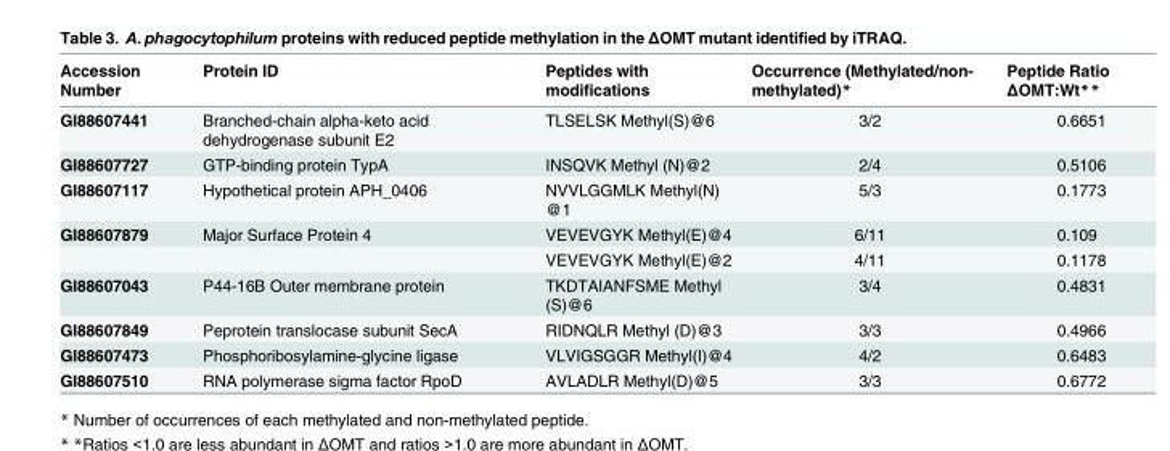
<table><thead><tr><td>Accession Number</td><td>Protein ID</td><td>Peptides with modifications</td><td>Occurrence (Methylated/non- methylated)*</td><td>Peptide Ratio ΔOMT:Wt**</td></tr></thead><tbody><tr><td>GI88607441</td><td>Branched-chain alpha-keto acid dehydrogenase subunit E2</td><td>TLSELSK Methyl(S)@6</td><td>3/2</td><td>0.6651</td></tr><tr><td>GI88607727</td><td>GTP-binding protein TypA</td><td>INSQVK Methyl (N)@2</td><td>2/4</td><td>0.5106</td></tr><tr><td>GI88607117</td><td>Hypothetical protein APH_0406</td><td>NVVLGGMLK Methyl(N) @1</td><td>5/3</td><td>0.1773</td></tr><tr><td rowspan="2">GI88607879</td><td>Major Surface Protein 4</td><td>VEVEVGYK Methyl(E)@4</td><td>6/11</td><td>0.109</td></tr><tr><td></td><td>VEVEVGYK Methyl(E)@2</td><td>4/11</td><td>0.1178</td></tr><tr><td>GI88607043</td><td>P44-16B Outer membrane protein</td><td>TKDTAIANFSME Methyl (S)@6</td><td>3/4</td><td>0.4831</td></tr><tr><td>GI88607849</td><td>Peprotein translocase subunit SecA</td><td>RIDNQLR Methyl (D)@3</td><td>3/3</td><td>0.4966</td></tr><tr><td>GI88607473</td><td>Phosphoribosylamine-glycine ligase</td><td>VLVIGSGGR Methyl(I)@4</td><td>4/2</td><td>0.6483</td></tr><tr><td>GI88607510</td><td>RNA polymerase sigma factor RpoD</td><td>AVLADLR Methyl(D)@5</td><td>3/3</td><td>0.6772</td></tr></tbody></table>